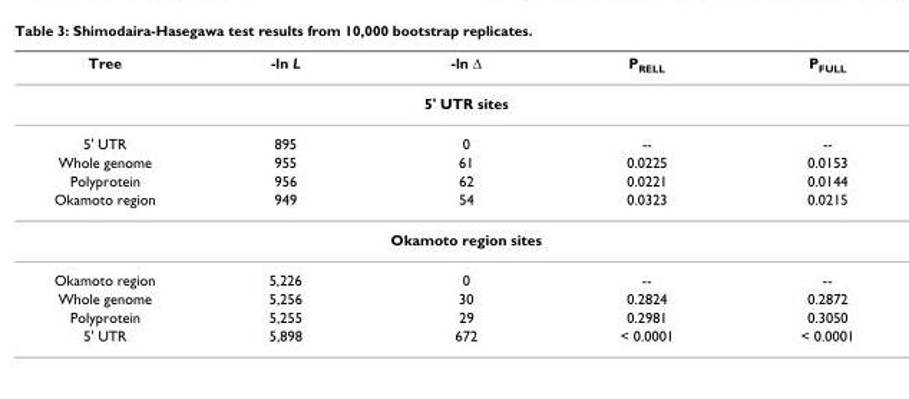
<table><thead><tr><td>Tree</td><td>-ln L</td><td>-ln Δ</td><td>P<sub>RELL</sub></td><td>P<sub>FULL</sub></td></tr></thead><tbody><tr><td colspan="5">5&#x27; UTR sites</td></tr><tr><td>5&#x27; UTR</td><td>895</td><td>0</td><td>--</td><td>--</td></tr><tr><td>Whole genome</td><td>955</td><td>61</td><td>0.0225</td><td>0.0153</td></tr><tr><td>Polyprotein</td><td>956</td><td>62</td><td>0.0221</td><td>0.0144</td></tr><tr><td>Okamoto region</td><td>949</td><td>54</td><td>0.0323</td><td>0.0215</td></tr><tr><td colspan="5">Okamoto region sites</td></tr><tr><td>Okamoto region</td><td>5,226</td><td>0</td><td>--</td><td>--</td></tr><tr><td>Whole genome</td><td>5,256</td><td>30</td><td>0.2824</td><td>0.2872</td></tr><tr><td>Polyprotein</td><td>5,255</td><td>29</td><td>0.2981</td><td>0.3050</td></tr><tr><td>5&#x27; UTR</td><td>5,898</td><td>672</td><td>&lt; 0.0001</td><td>&lt; 0.0001</td></tr></tbody></table>